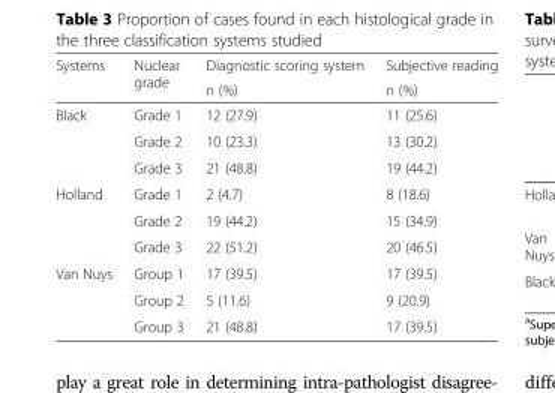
<table><thead><tr><td rowspan="2">Systems</td><td rowspan="2">Nuclear grade</td><td rowspan="2">Diagnostic scoring system n (%)</td><td rowspan="2">Subjective reading n (%)</td></tr><tr></tr></thead><tbody><tr><td rowspan="3">Black</td><td>Grade 1</td><td>12 (27.9)</td><td>11 (25.6)</td></tr><tr><td>Grade 2</td><td>10 (23.3)</td><td>13 (30.2)</td></tr><tr><td>Grade 3</td><td>21 (48.8)</td><td>19 (44.2)</td></tr><tr><td rowspan="3">Holland</td><td>Grade 1</td><td>2 (4.7)</td><td>8 (18.6)</td></tr><tr><td>Grade 2</td><td>19 (44.2)</td><td>15 (34.9)</td></tr><tr><td>Grade 3</td><td>22 (51.2)</td><td>20 (46.5)</td></tr><tr><td rowspan="3">Van Nuys</td><td>Group 1</td><td>17 (39.5)</td><td>17 (39.5)</td></tr><tr><td>Group 2</td><td>5 (11.6)</td><td>9 (20.9)</td></tr><tr><td>Group 3</td><td>21 (48.8)</td><td>17 (39.5)</td></tr></tbody></table>